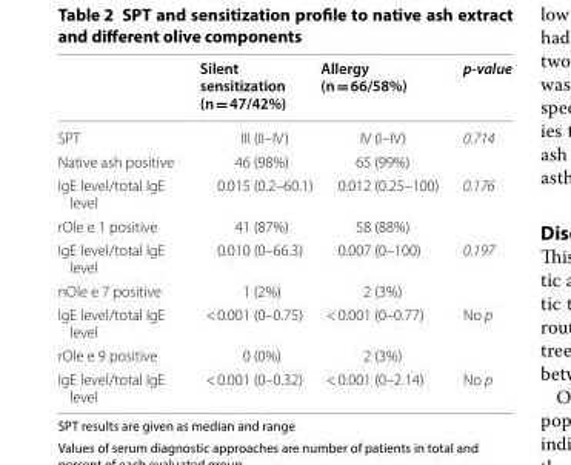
<table><thead><tr><td></td><td>Silent sensitization (n = 47/42%)</td><td>Allergy (n = 66/58%)</td><td>p-value</td></tr></thead><tbody><tr><td>SPT</td><td>III (II–IV)</td><td>IV (I–IV)</td><td>0.714</td></tr><tr><td>Native ash positive</td><td>46 (98%)</td><td>65 (99%)</td><td></td></tr><tr><td>IgE level/total IgE level</td><td>0.015 (0.2–60.1)</td><td>0.012 (0.25–100)</td><td>0.176</td></tr><tr><td>rOle e 1 positive</td><td>41 (87%)</td><td>58 (88%)</td><td></td></tr><tr><td>IgE level/total IgE level</td><td>0.010 (0–66.3)</td><td>0.007 (0–100)</td><td>0.197</td></tr><tr><td>nOle e 7 positive</td><td>1 (2%)</td><td>2 (3%)</td><td></td></tr><tr><td>IgE level/total IgE level</td><td>&lt; 0.001 (0–0.75)</td><td>&lt; 0.001 (0–0.77)</td><td>No p</td></tr><tr><td>rOle e 9 positive</td><td>0 (0%)</td><td>2 (3%)</td><td></td></tr><tr><td>IgE level/total IgE level</td><td>&lt; 0.001 (0–0.32)</td><td>&lt; 0.001 (0–2.14)</td><td>No p</td></tr></tbody></table>